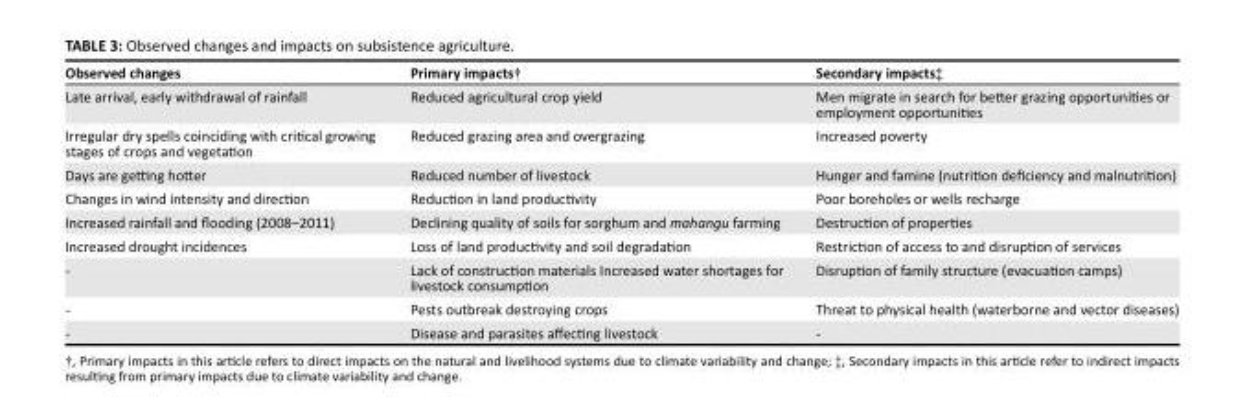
<table><thead><tr><td>Observed changes</td><td>Primary impacts†</td><td>Secondary impacts‡</td></tr></thead><tbody><tr><td>Late arrival, early withdrawal of rainfall</td><td>Reduced agricultural crop yield</td><td>Men migrate in search for better grazing opportunities or employment opportunities</td></tr><tr><td>Irregular dry spells coinciding with critical growing stages of crops and vegetation</td><td>Reduced grazing area and overgrazing</td><td>Increased poverty</td></tr><tr><td>Days are getting hotter</td><td>Reduced number of livestock</td><td>Hunger and famine (nutrition deficiency and malnutrition)</td></tr><tr><td>Changes in wind intensity and direction</td><td>Reduction in land productivity</td><td>Poor boreholes or wells recharge</td></tr><tr><td>Increased rainfall and flooding (2008–2011)</td><td>Declining quality of soils for sorghum and mahangu farming</td><td>Destruction of properties</td></tr><tr><td>Increased drought incidences</td><td>Loss of land productivity and soil degradation</td><td>Restriction of access to and disruption of services</td></tr><tr><td>-</td><td>Lack of construction materials Increased water shortages for livestock consumption</td><td>Disruption of family structure (evacuation camps)</td></tr><tr><td>-</td><td>Pests outbreak destroying crops</td><td>Threat to physical health (waterborne and vector diseases)</td></tr><tr><td>-</td><td>Disease and parasites affecting livestock</td><td>-</td></tr></tbody></table>